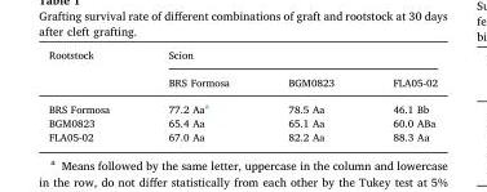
<table><thead><tr><td rowspan="2">Rootstock</td><td colspan="3">Scion</td></tr><tr><td>BRS Formosa</td><td>BGM0823</td><td>FLA05-02</td></tr></thead><tbody><tr><td>BRS Formosa</td><td>77.2 Aa<sup>a</sup></td><td>78.5 Aa</td><td>46.1 Bb</td></tr><tr><td>BGM0823</td><td>65.4 Aa</td><td>65.1 Aa</td><td>60.0 ABa</td></tr><tr><td>FLA05-02</td><td>67.0 Aa</td><td>82.2 Aa</td><td>88.3 Aa</td></tr></tbody></table>